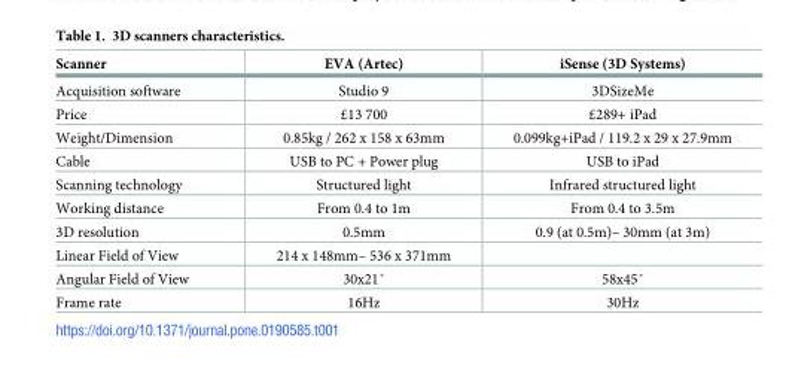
<table><thead><tr><td>Scanner</td><td>EVA (Artec)</td><td>iSense (3D Systems)</td></tr></thead><tbody><tr><td>Acquisition software</td><td>Studio 9</td><td>3DSizeMe</td></tr><tr><td>Price</td><td>£13 700</td><td>£289+ iPad</td></tr><tr><td>Weight/Dimension</td><td>0.85kg / 262 x 158 x 63mm</td><td>0.099kg+iPad / 119.2 x 29 x 27.9mm</td></tr><tr><td>Cable</td><td>USB to PC + Power plug</td><td>USB to iPad</td></tr><tr><td>Scanning technology</td><td>Structured light</td><td>Infrared structured light</td></tr><tr><td>Working distance</td><td>From 0.4 to 1m</td><td>From 0.4 to 3.5m</td></tr><tr><td>3D resolution</td><td>0.5mm</td><td>0.9 (at 0.5m)– 30mm (at 3m)</td></tr><tr><td>Linear Field of View</td><td>214 x 148mm– 536 x 371mm</td><td></td></tr><tr><td>Angular Field of View</td><td>30x21˚</td><td>58x45˚</td></tr><tr><td>Frame rate</td><td>16Hz</td><td>30Hz</td></tr></tbody></table>